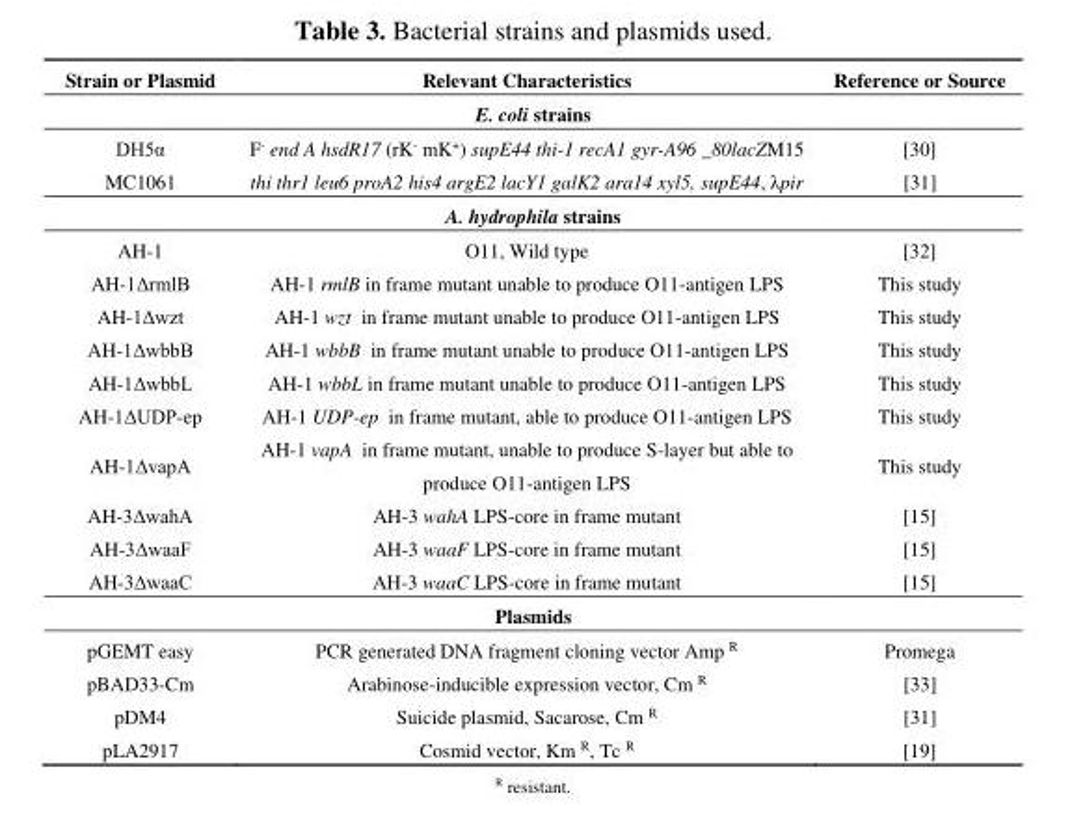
<table><thead><tr><td>Strain or Plasmid</td><td>Relevant Characteristics</td><td>Reference or Source</td></tr></thead><tbody><tr><td colspan="3">E. coli strains</td></tr><tr><td>DH5α</td><td>F<sup>-</sup> end A hsdR17 (rK<sup>-</sup> mK<sup>+</sup>) supE44 thi-1 recA1 gyr-A96 _80lacZM15</td><td>[30]</td></tr><tr><td>MC1061</td><td>thi thr1 leu6 proA2 his4 argE2 lacY1 galK2 ara14 xyl5, supE44, λpir</td><td>[31]</td></tr><tr><td colspan="3">A. hydrophila strains</td></tr><tr><td>AH-1</td><td>O11, Wild type</td><td>[32]</td></tr><tr><td>AH-1ΔrmlB</td><td>AH-1 rmlB in frame mutant unable to produce O11-antigen LPS</td><td>This study</td></tr><tr><td>AH-1Δwzt</td><td>AH-1 wzt in frame mutant unable to produce O11-antigen LPS</td><td>This study</td></tr><tr><td>AH-1ΔwbbB</td><td>AH-1 wbbB in frame mutant unable to produce O11-antigen LPS</td><td>This study</td></tr><tr><td>AH-1ΔwbbL</td><td>AH-1 wbbL in frame mutant unable to produce O11-antigen LPS</td><td>This study</td></tr><tr><td>AH-1ΔUDP-ep</td><td>AH-1 UDP-ep in frame mutant, able to produce O11-antigen LPS</td><td>This study</td></tr><tr><td>AH-1ΔvapA</td><td>AH-1 vapA in frame mutant, unable to produce S-layer but able to produce O11-antigen LPS</td><td>This study</td></tr><tr><td>AH-3ΔwahA</td><td>AH-3 wahA LPS-core in frame mutant</td><td>[15]</td></tr><tr><td>AH-3ΔwaaF</td><td>AH-3 waaF LPS-core in frame mutant</td><td>[15]</td></tr><tr><td>AH-3ΔwaaC</td><td>AH-3 waaC LPS-core in frame mutant</td><td>[15]</td></tr><tr><td colspan="3">Plasmids</td></tr><tr><td>pGEMT easy</td><td>PCR generated DNA fragment cloning vector Amp <sup>R</sup></td><td>Promega</td></tr><tr><td>pBAD33-Cm</td><td>Arabinose-inducible expression vector, Cm <sup>R</sup></td><td>[33]</td></tr><tr><td>pDM4</td><td>Suicide plasmid, Sacarose, Cm <sup>R</sup></td><td>[31]</td></tr><tr><td>pLA2917</td><td>Cosmid vector, Km <sup>R</sup>, Tc <sup>R</sup></td><td>[19]</td></tr></tbody></table>